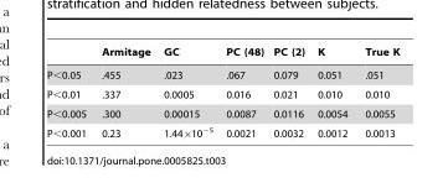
<table><thead><tr><td></td><td>Armitage</td><td>GC</td><td>PC (48)</td><td>PC (2)</td><td>K</td><td>True K</td></tr></thead><tbody><tr><td>P&lt;0.05</td><td>.455</td><td>.023</td><td>.067</td><td>0.079</td><td>0.051</td><td>.051</td></tr><tr><td>P&lt;0.01</td><td>.337</td><td>0.0005</td><td>0.016</td><td>0.021</td><td>0.010</td><td>0.010</td></tr><tr><td>P&lt;0.005</td><td>.300</td><td>0.00015</td><td>0.0087</td><td>0.0116</td><td>0.0054</td><td>0.0055</td></tr><tr><td>P&lt;0.001</td><td>0.23</td><td>1.44×10<sup>−5</sup></td><td>0.0021</td><td>0.0032</td><td>0.0012</td><td>0.0013</td></tr></tbody></table>